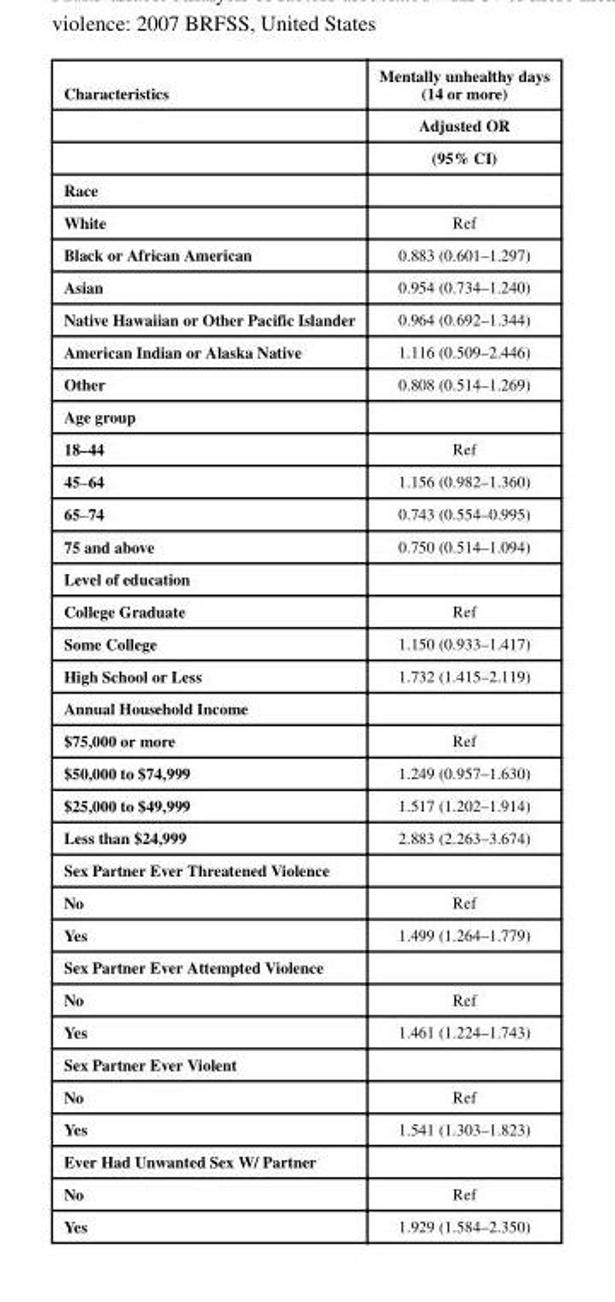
<table><thead><tr><td rowspan="3">Characteristics</td><td rowspan="3">Mentally unhealthy days (14 or more) Adjusted OR (95% CI)</td></tr><tr></tr><tr></tr></thead><tbody><tr><td colspan="2">Race</td></tr><tr><td>White</td><td>Ref</td></tr><tr><td>Black or African American</td><td>0.883 (0.601–1.297)</td></tr><tr><td>Asian</td><td>0.954 (0.734–1.240)</td></tr><tr><td>Native Hawaiian or Other Pacific Islander</td><td>0.964 (0.692–1.344)</td></tr><tr><td>American Indian or Alaska Native</td><td>1.116 (0.509–2.446)</td></tr><tr><td>Other</td><td>0.808 (0.514–1.269)</td></tr><tr><td colspan="2">Age group</td></tr><tr><td>18–44</td><td>Ref</td></tr><tr><td>45–64</td><td>1.156 (0.982–1.360)</td></tr><tr><td>65–74</td><td>0.743 (0.554–0.995)</td></tr><tr><td>75 and above</td><td>0.750 (0.514–1.094)</td></tr><tr><td colspan="2">Level of education</td></tr><tr><td>College Graduate</td><td>Ref</td></tr><tr><td>Some College</td><td>1.150 (0.933–1.417)</td></tr><tr><td>High School or Less</td><td>1.732 (1.415–2.119)</td></tr><tr><td colspan="2">Annual Household Income</td></tr><tr><td>$75,000 or more</td><td>Ref</td></tr><tr><td>$50,000 to $74,999</td><td>1.249 (0.957–1.630)</td></tr><tr><td>$25,000 to $49,999</td><td>1.517 (1.202–1.914)</td></tr><tr><td>Less than $24,999</td><td>2.883 (2.263–3.674)</td></tr><tr><td colspan="2">Sex Partner Ever Threatened Violence</td></tr><tr><td>No</td><td>Ref</td></tr><tr><td>Yes</td><td>1.499 (1.264–1.779)</td></tr><tr><td colspan="2">Sex Partner Ever Attempted Violence</td></tr><tr><td>No</td><td>Ref</td></tr><tr><td>Yes</td><td>1.461 (1.224–1.743)</td></tr><tr><td colspan="2">Sex Partner Ever Violent</td></tr><tr><td>No</td><td>Ref</td></tr><tr><td>Yes</td><td>1.541 (1.303–1.823)</td></tr><tr><td colspan="2">Ever Had Unwanted Sex W/ Partner</td></tr><tr><td>No</td><td>Ref</td></tr><tr><td>Yes</td><td>1.929 (1.584–2.350)</td></tr></tbody></table>